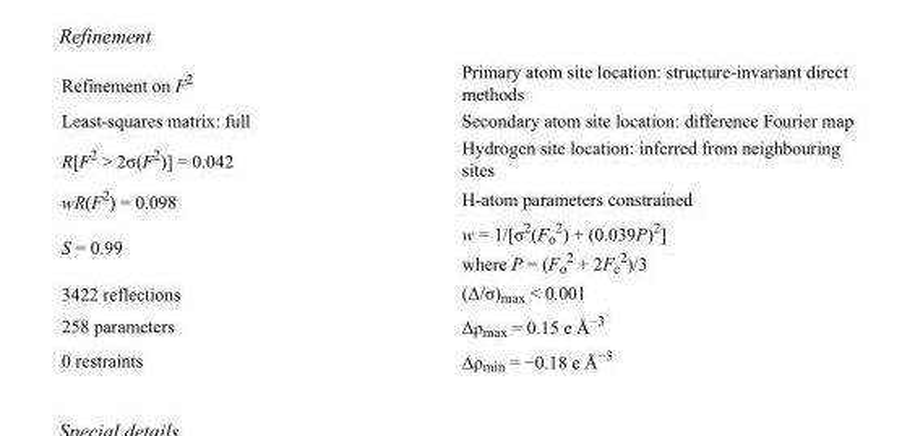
<table><tbody><tr><td>Refinement on F<sup>2</sup></td><td>Primary atom site location: structure-invariant direct methods</td></tr><tr><td>Least-squares matrix: full</td><td>Secondary atom site location: difference Fourier map</td></tr><tr><td>R[F<sup>2</sup> &gt; 2σ(F<sup>2</sup>)] = 0.042</td><td>Hydrogen site location: inferred from neighbouring sites</td></tr><tr><td>wR(F<sup>2</sup>) = 0.098</td><td>H-atom parameters constrained</td></tr><tr><td>S = 0.99</td><td>w = 1/[σ<sup>2</sup>(F<sub>o</sub> <sup>2</sup>) + (0.039P)<sup>2</sup>] where P = (F<sub>o</sub> <sup>2</sup> + 2F<sub>c</sub> <sup>2</sup>)/3</td></tr><tr><td>3422 reflections</td><td>(Δ/σ)<sub>max</sub> &lt; 0.001</td></tr><tr><td>258 parameters</td><td>Δρ<sub>max</sub> = 0.15 e Å<sup>−3</sup></td></tr><tr><td>0 restraints</td><td>Δρ<sub>min</sub> = −0.18 e Å<sup>−3</sup></td></tr></tbody></table>